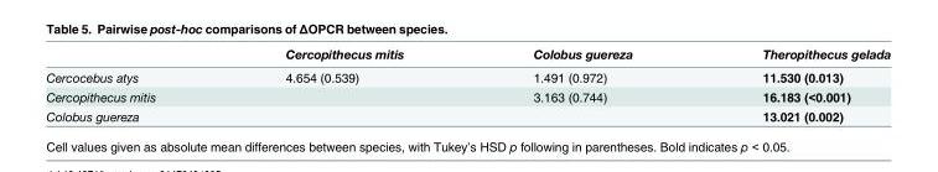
<table><thead><tr><td></td><td>Cercopithecus mitis</td><td>Colobus guereza</td><td>Theropithecus gelada</td></tr></thead><tbody><tr><td>Cercocebus atys</td><td>4.654 (0.539)</td><td>1.491 (0.972)</td><td>11.530 (0.013)</td></tr><tr><td>Cercopithecus mitis</td><td></td><td>3.163 (0.744)</td><td>16.183 (&lt;0.001)</td></tr><tr><td>Colobus guereza</td><td></td><td></td><td>13.021 (0.002)</td></tr></tbody></table>